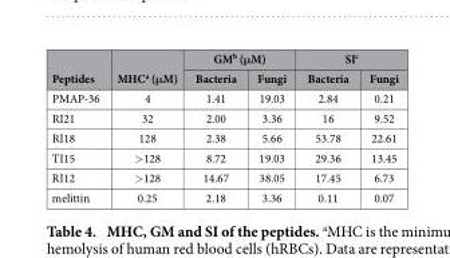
<table><thead><tr><td rowspan="2">Peptides</td><td rowspan="2">MHC<sup>a</sup> (μM)</td><td colspan="2">GM<sup>b</sup> (μM)</td><td colspan="2">SI<sup>c</sup></td></tr><tr><td>Bacteria</td><td>Fungi</td><td>Bacteria</td><td>Fungi</td></tr></thead><tbody><tr><td>PMAP-36</td><td>4</td><td>1.41</td><td>19.03</td><td>2.84</td><td>0.21</td></tr><tr><td>RI21</td><td>32</td><td>2.00</td><td>3.36</td><td>16</td><td>9.52</td></tr><tr><td>RI18</td><td>128</td><td>2.38</td><td>5.66</td><td>53.78</td><td>22.61</td></tr><tr><td>TI15</td><td>&gt; 128</td><td>8.72</td><td>19.03</td><td>29.36</td><td>13.45</td></tr><tr><td>RI12</td><td>&gt; 128</td><td>14.67</td><td>38.05</td><td>17.45</td><td>6.73</td></tr><tr><td>melittin</td><td>0.25</td><td>2.18</td><td>3.36</td><td>0.11</td><td>0.07</td></tr></tbody></table>